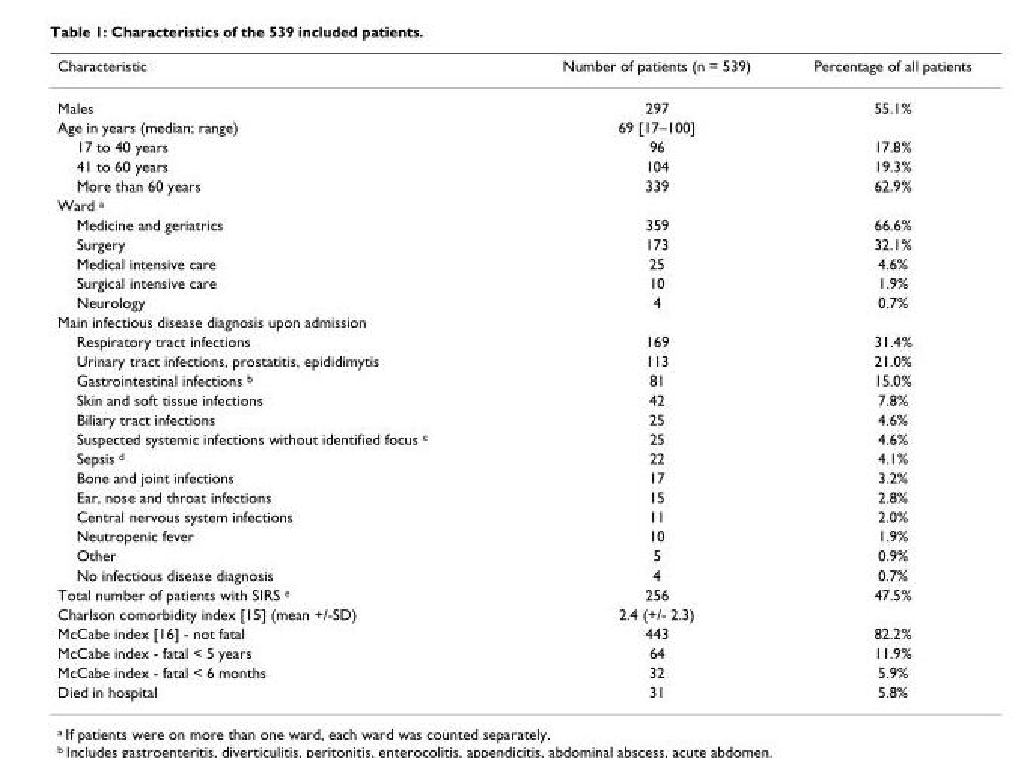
<table><thead><tr><td>Characteristic</td><td>Number of patients (n = 539)</td><td>Percentage of all patients</td></tr></thead><tbody><tr><td>Males</td><td>297</td><td>55.1%</td></tr><tr><td>Age in years (median; range)</td><td>69 [17–100]</td><td></td></tr><tr><td>17 to 40 years</td><td>96</td><td>17.8%</td></tr><tr><td>41 to 60 years</td><td>104</td><td>19.3%</td></tr><tr><td>More than 60 years</td><td>339</td><td>62.9%</td></tr><tr><td colspan="3">Ward <sup>a</sup></td></tr><tr><td>Medicine and geriatrics</td><td>359</td><td>66.6%</td></tr><tr><td>Surgery</td><td>173</td><td>32.1%</td></tr><tr><td>Medical intensive care</td><td>25</td><td>4.6%</td></tr><tr><td>Surgical intensive care</td><td>10</td><td>1.9%</td></tr><tr><td>Neurology</td><td>4</td><td>0.7%</td></tr><tr><td colspan="3">Main infectious disease diagnosis upon admission</td></tr><tr><td>Respiratory tract infections</td><td>169</td><td>31.4%</td></tr><tr><td>Urinary tract infections, prostatitis, epididimytis</td><td>113</td><td>21.0%</td></tr><tr><td>Gastrointestinal infections <sup>b</sup></td><td>81</td><td>15.0%</td></tr><tr><td>Skin and soft tissue infections</td><td>42</td><td>7.8%</td></tr><tr><td>Biliary tract infections</td><td>25</td><td>4.6%</td></tr><tr><td>Suspected systemic infections without identified focus <sup>c</sup></td><td>25</td><td>4.6%</td></tr><tr><td>Sepsis <sup>d</sup></td><td>22</td><td>4.1%</td></tr><tr><td>Bone and joint infections</td><td>17</td><td>3.2%</td></tr><tr><td>Ear, nose and throat infections</td><td>15</td><td>2.8%</td></tr><tr><td>Central nervous system infections</td><td>11</td><td>2.0%</td></tr><tr><td>Neutropenic fever</td><td>10</td><td>1.9%</td></tr><tr><td>Other</td><td>5</td><td>0.9%</td></tr><tr><td>No infectious disease diagnosis</td><td>4</td><td>0.7%</td></tr><tr><td>Total number of patients with SIRS <sup>e</sup></td><td>256</td><td>47.5%</td></tr><tr><td>Charlson comorbidity index [15] (mean +/-SD)</td><td>2.4 (+/- 2.3)</td><td></td></tr><tr><td>McCabe index [16] - not fatal</td><td>443</td><td>82.2%</td></tr><tr><td>McCabe index - fatal &lt; 5 years</td><td>64</td><td>11.9%</td></tr><tr><td>McCabe index - fatal &lt; 6 months</td><td>32</td><td>5.9%</td></tr><tr><td>Died in hospital</td><td>31</td><td>5.8%</td></tr></tbody></table>